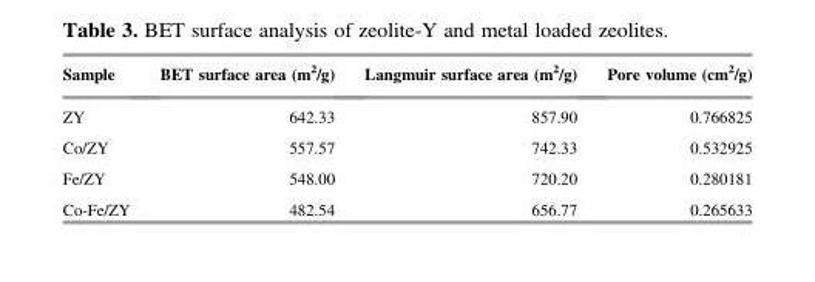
<table><thead><tr><td>Sample</td><td>BET surface area (m<sup>2</sup>/g)</td><td>Langmuir surface area (m<sup>2</sup>/g)</td><td>Pore volume (cm<sup>2</sup>/g)</td></tr></thead><tbody><tr><td>ZY</td><td>642.33</td><td>857.90</td><td>0.766825</td></tr><tr><td>Co/ZY</td><td>557.57</td><td>742.33</td><td>0.532925</td></tr><tr><td>Fe/ZY</td><td>548.00</td><td>720.20</td><td>0.280181</td></tr><tr><td>Co-Fe/ZY</td><td>482.54</td><td>656.77</td><td>0.265633</td></tr></tbody></table>